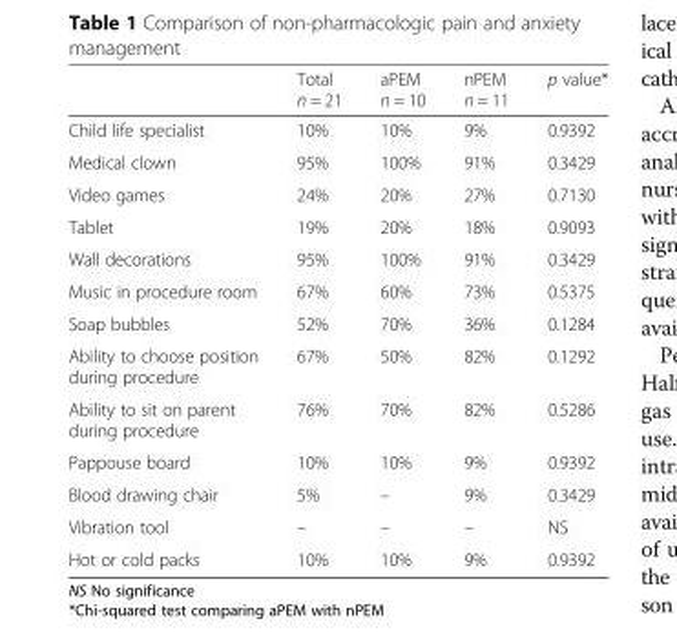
<table><thead><tr><td></td><td>Total n = 21</td><td>aPEM n = 10</td><td>nPEM n = 11</td><td>p value*</td></tr></thead><tbody><tr><td>Child life specialist</td><td>10%</td><td>10%</td><td>9%</td><td>0.9392</td></tr><tr><td>Medical clown</td><td>95%</td><td>100%</td><td>91%</td><td>0.3429</td></tr><tr><td>Video games</td><td>24%</td><td>20%</td><td>27%</td><td>0.7130</td></tr><tr><td>Tablet</td><td>19%</td><td>20%</td><td>18%</td><td>0.9093</td></tr><tr><td>Wall decorations</td><td>95%</td><td>100%</td><td>91%</td><td>0.3429</td></tr><tr><td>Music in procedure room</td><td>67%</td><td>60%</td><td>73%</td><td>0.5375</td></tr><tr><td>Soap bubbles</td><td>52%</td><td>70%</td><td>36%</td><td>0.1284</td></tr><tr><td>Ability to choose position during procedure</td><td>67%</td><td>50%</td><td>82%</td><td>0.1292</td></tr><tr><td>Ability to sit on parent during procedure</td><td>76%</td><td>70%</td><td>82%</td><td>0.5286</td></tr><tr><td>Pappouse board</td><td>10%</td><td>10%</td><td>9%</td><td>0.9392</td></tr><tr><td>Blood drawing chair</td><td>5%</td><td>–</td><td>9%</td><td>0.3429</td></tr><tr><td>Vibration tool</td><td>–</td><td>–</td><td>–</td><td>NS</td></tr><tr><td>Hot or cold packs</td><td>10%</td><td>10%</td><td>9%</td><td>0.9392</td></tr></tbody></table>